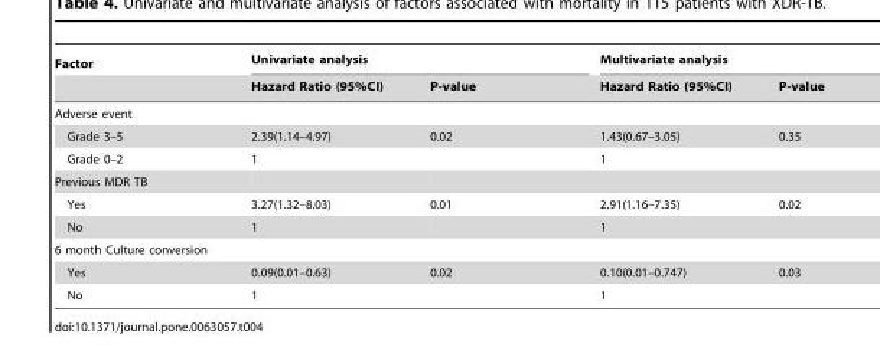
<table><thead><tr><td rowspan="2">Factor</td><td colspan="2">Univariate analysis</td><td colspan="2">Multivariate analysis</td></tr><tr><td>Hazard Ratio (95%CI)</td><td>P-value</td><td>Hazard Ratio (95%CI)</td><td>P-value</td></tr></thead><tbody><tr><td colspan="5">Adverse event</td></tr><tr><td>Grade 3–5</td><td>2.39(1.14–4.97)</td><td>0.02</td><td>1.43(0.67–3.05)</td><td>0.35</td></tr><tr><td>Grade 0–2</td><td>1</td><td></td><td>1</td><td></td></tr><tr><td colspan="5">Previous MDR TB</td></tr><tr><td>Yes</td><td>3.27(1.32–8.03)</td><td>0.01</td><td>2.91(1.16–7.35)</td><td>0.02</td></tr><tr><td>No</td><td>1</td><td></td><td>1</td><td></td></tr><tr><td colspan="5">6 month Culture conversion</td></tr><tr><td>Yes</td><td>0.09(0.01–0.63)</td><td>0.02</td><td>0.10(0.01–0.747)</td><td>0.03</td></tr><tr><td>No</td><td>1</td><td></td><td>1</td><td></td></tr></tbody></table>